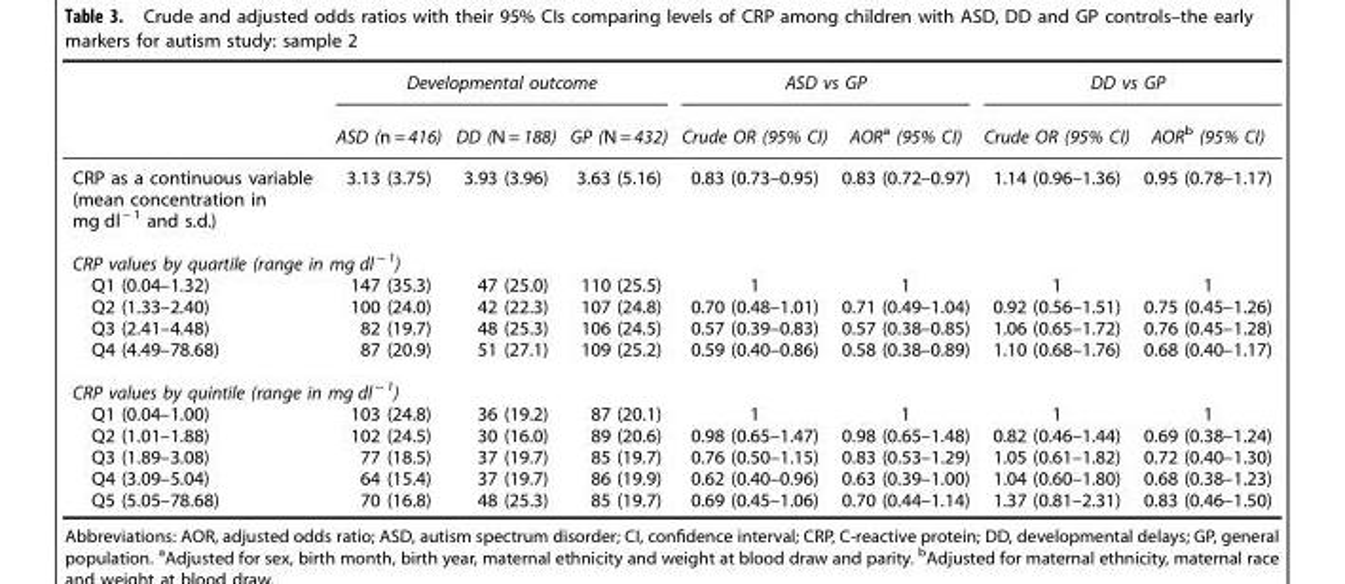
<table><thead><tr><td rowspan="2"></td><td colspan="3">Developmental outcome</td><td colspan="2">ASD vs GP</td><td colspan="2">DD vs GP</td></tr><tr><td>ASD (n = 416)</td><td>DD (N = 188)</td><td>GP (N = 432)</td><td>Crude OR (95% CI)</td><td>AOR<sup>a</sup> (95% CI)</td><td>Crude OR (95% CI)</td><td>AOR<sup>b</sup> (95% CI)</td></tr></thead><tbody><tr><td>CRP as a continuous variable (mean concentration in mg dl <sup>− 1</sup> and s.d.)</td><td>3.13 (3.75)</td><td>3.93 (3.96)</td><td>3.63 (5.16)</td><td>0.83 (0.73–0.95)</td><td>0.83 (0.72–0.97)</td><td>1.14 (0.96–1.36)</td><td>0.95 (0.78–1.17)</td></tr><tr><td colspan="8">CRP values by quartile (range in mg dl <sup>− 1</sup>)</td></tr><tr><td>Q1 (0.04–1.32)</td><td>147 (35.3)</td><td>47 (25.0)</td><td>110 (25.5)</td><td>1</td><td>1</td><td>1</td><td>1</td></tr><tr><td>Q2 (1.33–2.40)</td><td>100 (24.0)</td><td>42 (22.3)</td><td>107 (24.8)</td><td>0.70 (0.48–1.01)</td><td>0.71 (0.49–1.04)</td><td>0.92 (0.56–1.51)</td><td>0.75 (0.45–1.26)</td></tr><tr><td>Q3 (2.41–4.48)</td><td>82 (19.7)</td><td>48 (25.3)</td><td>106 (24.5)</td><td>0.57 (0.39–0.83)</td><td>0.57 (0.38–0.85)</td><td>1.06 (0.65–1.72)</td><td>0.76 (0.45–1.28)</td></tr><tr><td>Q4 (4.49–78.68)</td><td>87 (20.9)</td><td>51 (27.1)</td><td>109 (25.2)</td><td>0.59 (0.40–0.86)</td><td>0.58 (0.38–0.89)</td><td>1.10 (0.68–1.76)</td><td>0.68 (0.40–1.17)</td></tr><tr><td colspan="8">CRP values by quintile (range in mg dl <sup>− 1</sup>)</td></tr><tr><td>Q1 (0.04–1.00)</td><td>103 (24.8)</td><td>36 (19.2)</td><td>87 (20.1)</td><td>1</td><td>1</td><td>1</td><td>1</td></tr><tr><td>Q2 (1.01–1.88)</td><td>102 (24.5)</td><td>30 (16.0)</td><td>89 (20.6)</td><td>0.98 (0.65–1.47)</td><td>0.98 (0.65–1.48)</td><td>0.82 (0.46–1.44)</td><td>0.69 (0.38–1.24)</td></tr><tr><td>Q3 (1.89–3.08)</td><td>77 (18.5)</td><td>37 (19.7)</td><td>85 (19.7)</td><td>0.76 (0.50–1.15)</td><td>0.83 (0.53–1.29)</td><td>1.05 (0.61–1.82)</td><td>0.72 (0.40–1.30)</td></tr><tr><td>Q4 (3.09–5.04)</td><td>64 (15.4)</td><td>37 (19.7)</td><td>86 (19.9)</td><td>0.62 (0.40–0.96)</td><td>0.63 (0.39–1.00)</td><td>1.04 (0.60–1.80)</td><td>0.68 (0.38–1.23)</td></tr><tr><td>Q5 (5.05–78.68)</td><td>70 (16.8)</td><td>48 (25.3)</td><td>85 (19.7)</td><td>0.69 (0.45–1.06)</td><td>0.70 (0.44–1.14)</td><td>1.37 (0.81–2.31)</td><td>0.83 (0.46–1.50)</td></tr></tbody></table>